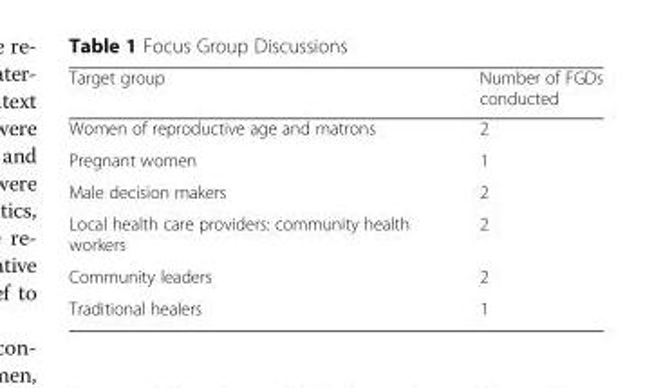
<table><thead><tr><td>Target group</td><td>Number of FGDs conducted</td></tr></thead><tbody><tr><td>Women of reproductive age and matrons</td><td>2</td></tr><tr><td>Pregnant women</td><td>1</td></tr><tr><td>Male decision makers</td><td>2</td></tr><tr><td>Local health care providers: community health workers</td><td>2</td></tr><tr><td>Community leaders</td><td>2</td></tr><tr><td>Traditional healers</td><td>1</td></tr></tbody></table>